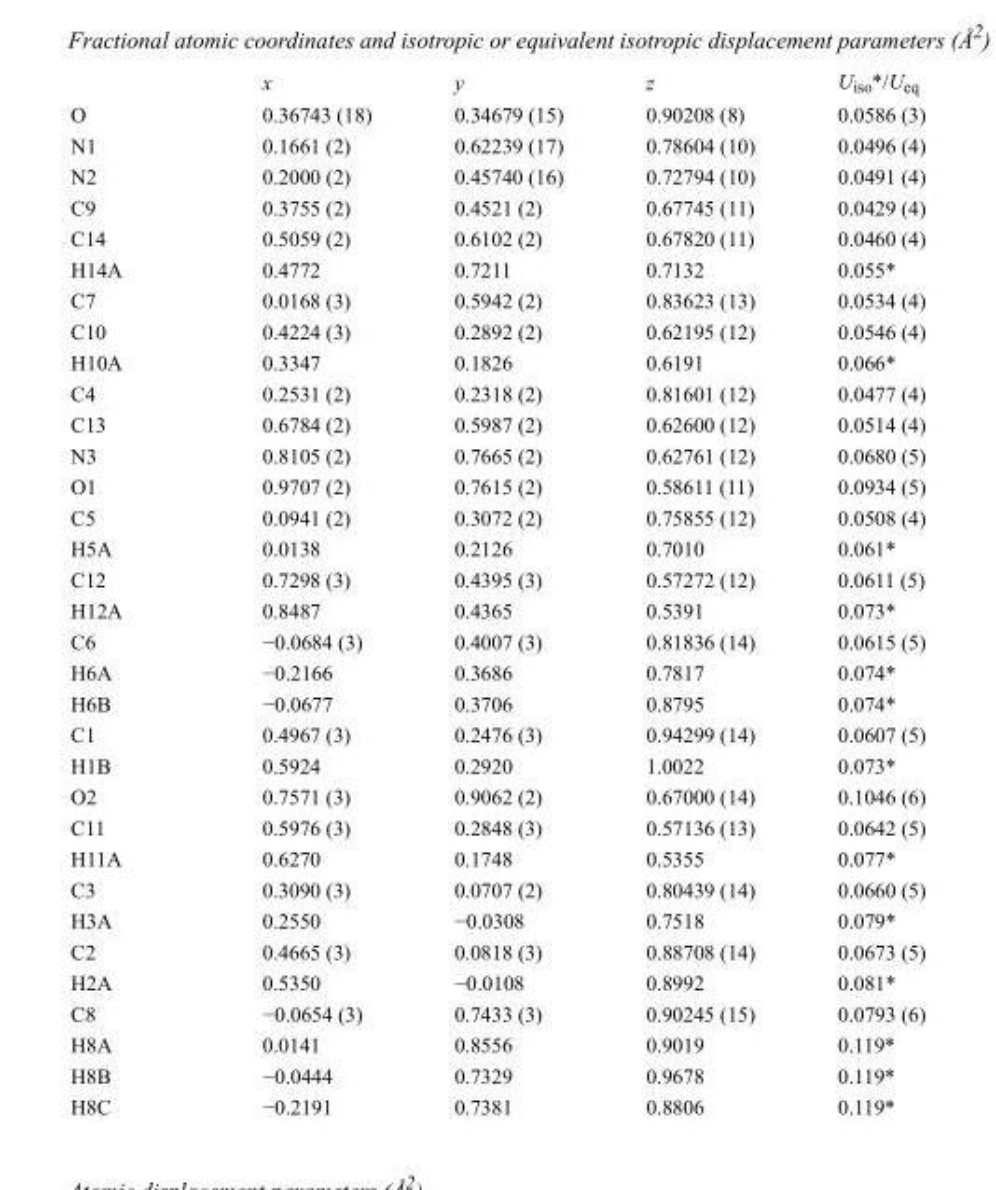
<table><thead><tr><td></td><td>x</td><td>y</td><td>z</td><td>U<sub>iso</sub>*/U<sub>eq</sub></td></tr></thead><tbody><tr><td>O</td><td>0.36743 (18)</td><td>0.34679 (15)</td><td>0.90208 (8)</td><td>0.0586 (3)</td></tr><tr><td>N1</td><td>0.1661 (2)</td><td>0.62239 (17)</td><td>0.78604 (10)</td><td>0.0496 (4)</td></tr><tr><td>N2</td><td>0.2000 (2)</td><td>0.45740 (16)</td><td>0.72794 (10)</td><td>0.0491 (4)</td></tr><tr><td>C9</td><td>0.3755 (2)</td><td>0.4521 (2)</td><td>0.67745 (11)</td><td>0.0429 (4)</td></tr><tr><td>C14</td><td>0.5059 (2)</td><td>0.6102 (2)</td><td>0.67820 (11)</td><td>0.0460 (4)</td></tr><tr><td>H14A</td><td>0.4772</td><td>0.7211</td><td>0.7132</td><td>0.055*</td></tr><tr><td>C7</td><td>0.0168 (3)</td><td>0.5942 (2)</td><td>0.83623 (13)</td><td>0.0534 (4)</td></tr><tr><td>C10</td><td>0.4224 (3)</td><td>0.2892 (2)</td><td>0.62195 (12)</td><td>0.0546 (4)</td></tr><tr><td>H10A</td><td>0.3347</td><td>0.1826</td><td>0.6191</td><td>0.066*</td></tr><tr><td>C4</td><td>0.2531 (2)</td><td>0.2318 (2)</td><td>0.81601 (12)</td><td>0.0477 (4)</td></tr><tr><td>C13</td><td>0.6784 (2)</td><td>0.5987 (2)</td><td>0.62600 (12)</td><td>0.0514 (4)</td></tr><tr><td>N3</td><td>0.8105 (2)</td><td>0.7665 (2)</td><td>0.62761 (12)</td><td>0.0680 (5)</td></tr><tr><td>O1</td><td>0.9707 (2)</td><td>0.7615 (2)</td><td>0.58611 (11)</td><td>0.0934 (5)</td></tr><tr><td>C5</td><td>0.0941 (2)</td><td>0.3072 (2)</td><td>0.75855 (12)</td><td>0.0508 (4)</td></tr><tr><td>H5A</td><td>0.0138</td><td>0.2126</td><td>0.7010</td><td>0.061*</td></tr><tr><td>C12</td><td>0.7298 (3)</td><td>0.4395 (3)</td><td>0.57272 (12)</td><td>0.0611 (5)</td></tr><tr><td>H12A</td><td>0.8487</td><td>0.4365</td><td>0.5391</td><td>0.073*</td></tr><tr><td>C6</td><td>−0.0684 (3)</td><td>0.4007 (3)</td><td>0.81836 (14)</td><td>0.0615 (5)</td></tr><tr><td>H6A</td><td>−0.2166</td><td>0.3686</td><td>0.7817</td><td>0.074*</td></tr><tr><td>H6B</td><td>−0.0677</td><td>0.3706</td><td>0.8795</td><td>0.074*</td></tr><tr><td>C1</td><td>0.4967 (3)</td><td>0.2476 (3)</td><td>0.94299 (14)</td><td>0.0607 (5)</td></tr><tr><td>H1B</td><td>0.5924</td><td>0.2920</td><td>1.0022</td><td>0.073*</td></tr><tr><td>O2</td><td>0.7571 (3)</td><td>0.9062 (2)</td><td>0.67000 (14)</td><td>0.1046 (6)</td></tr><tr><td>C11</td><td>0.5976 (3)</td><td>0.2848 (3)</td><td>0.57136 (13)</td><td>0.0642 (5)</td></tr><tr><td>H11A</td><td>0.6270</td><td>0.1748</td><td>0.5355</td><td>0.077*</td></tr><tr><td>C3</td><td>0.3090 (3)</td><td>0.0707 (2)</td><td>0.80439 (14)</td><td>0.0660 (5)</td></tr><tr><td>H3A</td><td>0.2550</td><td>−0.0308</td><td>0.7518</td><td>0.079*</td></tr><tr><td>C2</td><td>0.4665 (3)</td><td>0.0818 (3)</td><td>0.88708 (14)</td><td>0.0673 (5)</td></tr><tr><td>H2A</td><td>0.5350</td><td>−0.0108</td><td>0.8992</td><td>0.081*</td></tr><tr><td>C8</td><td>−0.0654 (3)</td><td>0.7433 (3)</td><td>0.90245 (15)</td><td>0.0793 (6)</td></tr><tr><td>H8A</td><td>0.0141</td><td>0.8556</td><td>0.9019</td><td>0.119*</td></tr><tr><td>H8B</td><td>−0.0444</td><td>0.7329</td><td>0.9678</td><td>0.119*</td></tr><tr><td>H8C</td><td>−0.2191</td><td>0.7381</td><td>0.8806</td><td>0.119*</td></tr></tbody></table>